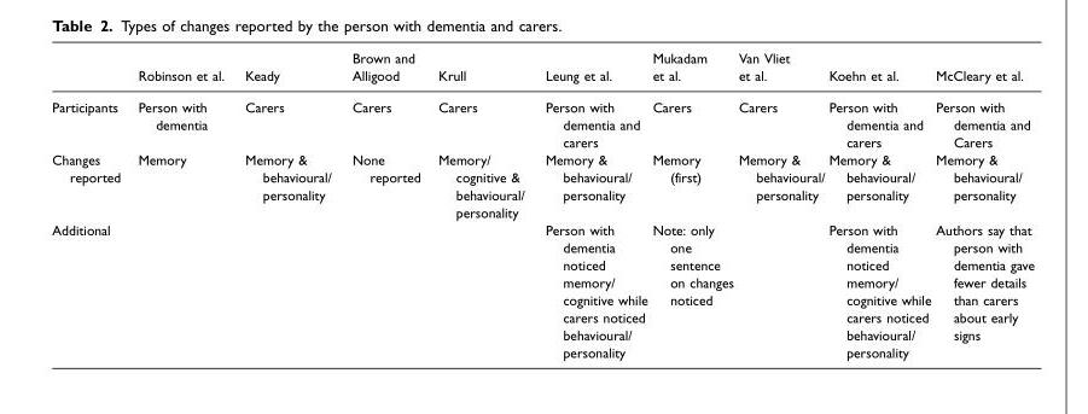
<table><thead><tr><td></td><td>Robinson et al.</td><td>Keady</td><td>Brown and Alligood</td><td>Krull</td><td>Leung et al.</td><td>Mukadam et al.</td><td>Van Vliet et al.</td><td>Koehn et al.</td><td>McCleary et al.</td></tr></thead><tbody><tr><td>Participants</td><td>Person with dementia</td><td>Carers</td><td>Carers</td><td>Carers</td><td>Person with dementia and carers</td><td>Carers</td><td>Carers</td><td>Person with dementia and carers</td><td>Person with dementia and Carers</td></tr><tr><td>Changes reported</td><td>Memory</td><td>Memory &amp; behavioural/ personality</td><td>None reported</td><td>Memory/ cognitive &amp; behavioural/ personality</td><td>Memory &amp; behavioural/ personality</td><td>Memory (first)</td><td>Memory &amp; behavioural/ personality</td><td>Memory &amp; behavioural/ personality</td><td>Memory &amp; behavioural/ personality</td></tr><tr><td>Additional</td><td></td><td></td><td></td><td></td><td>Person with dementia noticed memory/ cognitive while carers noticed behavioural/ personality</td><td>Note: only one sentence on changes noticed</td><td></td><td>Person with dementia noticed memory/ cognitive while carers noticed behavioural/ personality</td><td>Authors say that person with dementia gave fewer details than carers about early signs</td></tr></tbody></table>